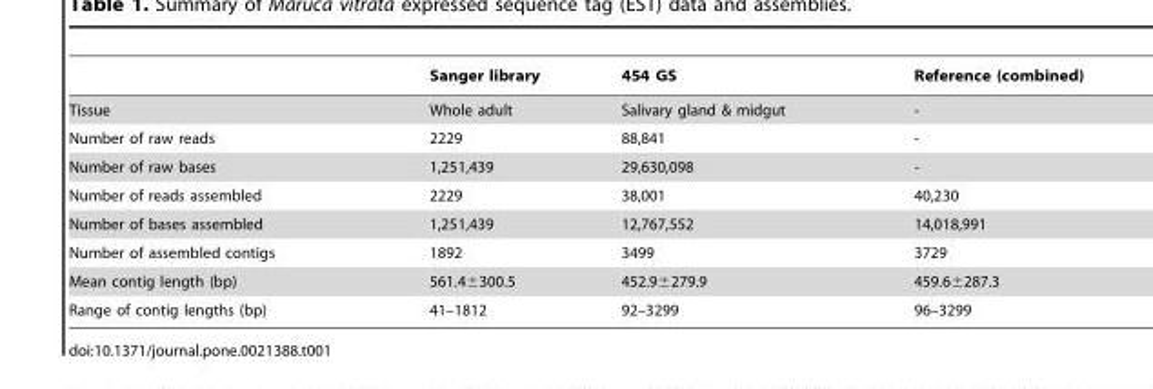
<table><thead><tr><td></td><td>Sanger library</td><td>454 GS</td><td>Reference (combined)</td></tr></thead><tbody><tr><td>Tissue</td><td>Whole adult</td><td>Salivary gland &amp; midgut</td><td>-</td></tr><tr><td>Number of raw reads</td><td>2229</td><td>88,841</td><td>-</td></tr><tr><td>Number of raw bases</td><td>1,251,439</td><td>29,630,098</td><td>-</td></tr><tr><td>Number of reads assembled</td><td>2229</td><td>38,001</td><td>40,230</td></tr><tr><td>Number of bases assembled</td><td>1,251,439</td><td>12,767,552</td><td>14,018,991</td></tr><tr><td>Number of assembled contigs</td><td>1892</td><td>3499</td><td>3729</td></tr><tr><td>Mean contig length (bp)</td><td>561.4±300.5</td><td>452.9±279.9</td><td>459.6±287.3</td></tr><tr><td>Range of contig lengths (bp)</td><td>41–1812</td><td>92–3299</td><td>96–3299</td></tr></tbody></table>